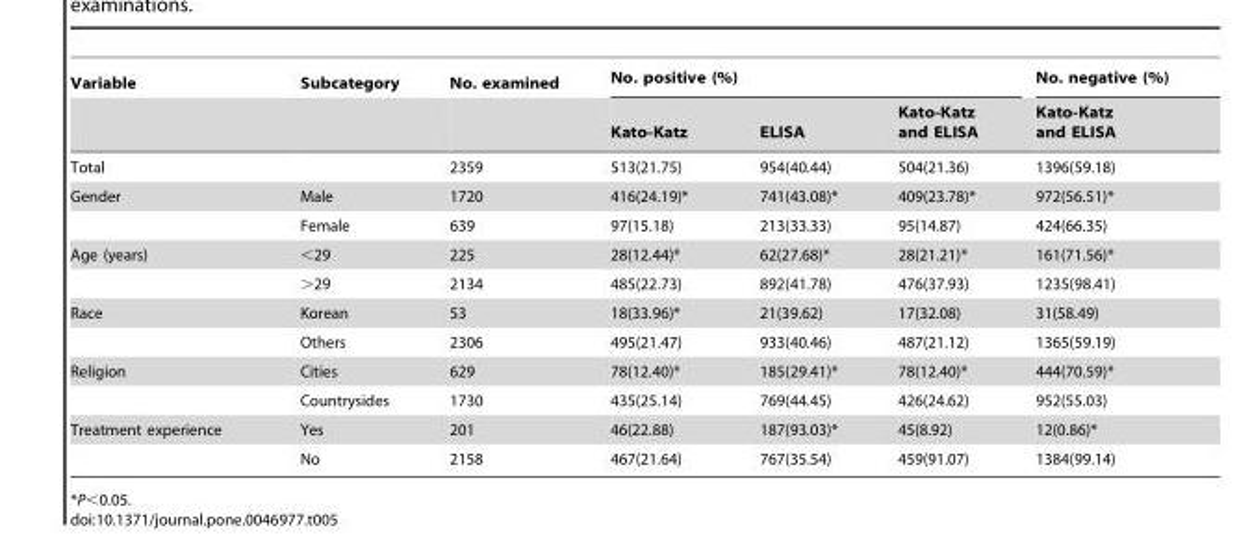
<table><thead><tr><td rowspan="2">Variable</td><td rowspan="2">Subcategory</td><td rowspan="2">No. examined</td><td colspan="3">No. positive (%)</td><td rowspan="2">No. negative (%) Kato-Katz and ELISA</td></tr><tr><td>Kato-Katz</td><td>ELISA</td><td>Kato-Katz and ELISA</td></tr></thead><tbody><tr><td>Total</td><td></td><td>2359</td><td>513(21.75)</td><td>954(40.44)</td><td>504(21.36)</td><td>1396(59.18)</td></tr><tr><td rowspan="2">Gender</td><td>Male</td><td>1720</td><td>416(24.19)*</td><td>741(43.08)*</td><td>409(23.78)*</td><td>972(56.51)*</td></tr><tr><td>Female</td><td>639</td><td>97(15.18)</td><td>213(33.33)</td><td>95(14.87)</td><td>424(66.35)</td></tr><tr><td rowspan="2">Age (years)</td><td>&lt;29</td><td>225</td><td>28(12.44)*</td><td>62(27.68)*</td><td>28(21.21)*</td><td>161(71.56)*</td></tr><tr><td>&gt;29</td><td>2134</td><td>485(22.73)</td><td>892(41.78)</td><td>476(37.93)</td><td>1235(98.41)</td></tr><tr><td rowspan="2">Race</td><td>Korean</td><td>53</td><td>18(33.96)*</td><td>21(39.62)</td><td>17(32.08)</td><td>31(58.49)</td></tr><tr><td>Others</td><td>2306</td><td>495(21.47)</td><td>933(40.46)</td><td>487(21.12)</td><td>1365(59.19)</td></tr><tr><td rowspan="2">Religion</td><td>Cities</td><td>629</td><td>78(12.40)*</td><td>185(29.41)*</td><td>78(12.40)*</td><td>444(70.59)*</td></tr><tr><td>Countrysides</td><td>1730</td><td>435(25.14)</td><td>769(44.45)</td><td>426(24.62)</td><td>952(55.03)</td></tr><tr><td rowspan="2">Treatment experience</td><td>Yes</td><td>201</td><td>46(22.88)</td><td>187(93.03)*</td><td>45(8.92)</td><td>12(0.86)*</td></tr><tr><td>No</td><td>2158</td><td>467(21.64)</td><td>767(35.54)</td><td>459(91.07)</td><td>1384(99.14)</td></tr></tbody></table>